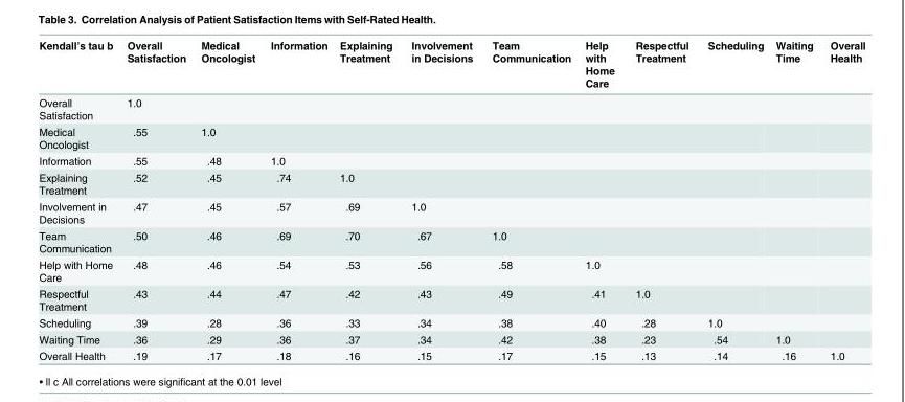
<table><thead><tr><td>Kendall’s tau b</td><td>Overall Satisfaction</td><td>Medical Oncologist</td><td>Information</td><td>Explaining Treatment</td><td>Involvement in Decisions</td><td>Team Communication</td><td>Help with Home Care</td><td>Respectful Treatment</td><td>Scheduling</td><td>Waiting Time</td><td>Overall Health</td></tr></thead><tbody><tr><td>Overall Satisfaction</td><td>1.0</td><td></td><td></td><td></td><td></td><td></td><td></td><td></td><td></td><td></td><td></td></tr><tr><td>Medical Oncologist</td><td>.55</td><td>1.0</td><td></td><td></td><td></td><td></td><td></td><td></td><td></td><td></td><td></td></tr><tr><td>Information</td><td>.55</td><td>.48</td><td>1.0</td><td></td><td></td><td></td><td></td><td></td><td></td><td></td><td></td></tr><tr><td>Explaining Treatment</td><td>.52</td><td>.45</td><td>.74</td><td>1.0</td><td></td><td></td><td></td><td></td><td></td><td></td><td></td></tr><tr><td>Involvement in Decisions</td><td>.47</td><td>.45</td><td>.57</td><td>.69</td><td>1.0</td><td></td><td></td><td></td><td></td><td></td><td></td></tr><tr><td>Team Communication</td><td>.50</td><td>.46</td><td>.69</td><td>.70</td><td>.67</td><td>1.0</td><td></td><td></td><td></td><td></td><td></td></tr><tr><td>Help with Home Care</td><td>.48</td><td>.46</td><td>.54</td><td>.53</td><td>.56</td><td>.58</td><td>1.0</td><td></td><td></td><td></td><td></td></tr><tr><td>Respectful Treatment</td><td>.43</td><td>.44</td><td>.47</td><td>.42</td><td>.43</td><td>.49</td><td>.41</td><td>1.0</td><td></td><td></td><td></td></tr><tr><td>Scheduling</td><td>.39</td><td>.28</td><td>.36</td><td>.33</td><td>.34</td><td>.38</td><td>.40</td><td>.28</td><td>1.0</td><td></td><td></td></tr><tr><td>Waiting Time</td><td>.36</td><td>.29</td><td>.36</td><td>.37</td><td>.34</td><td>.42</td><td>.38</td><td>.23</td><td>.54</td><td>1.0</td><td></td></tr><tr><td>Overall Health</td><td>.19</td><td>.17</td><td>.18</td><td>.16</td><td>.15</td><td>.17</td><td>.15</td><td>.13</td><td>.14</td><td>.16</td><td>1.0</td></tr></tbody></table>